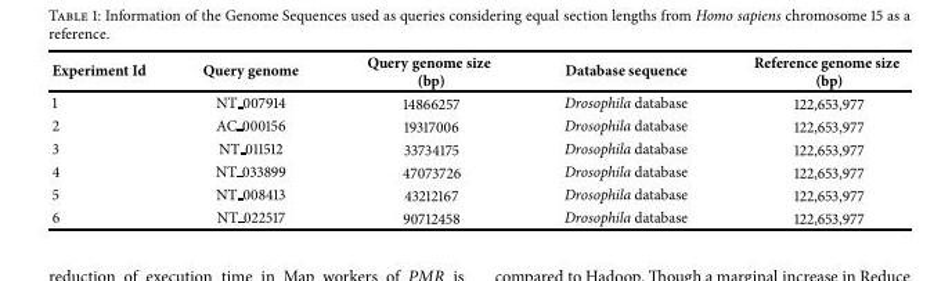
<table><thead><tr><td>Experiment Id</td><td>Query genome</td><td>Query genome size (bp)</td><td>Database sequence</td><td>Reference genome size (bp)</td></tr></thead><tbody><tr><td>1</td><td>NT 007914</td><td>14866257</td><td>Drosophila database</td><td>122,653,977</td></tr><tr><td>2</td><td>AC 000156</td><td>19317006</td><td>Drosophila database</td><td>122,653,977</td></tr><tr><td>3</td><td>NT 011512</td><td>33734175</td><td>Drosophila database</td><td>122,653,977</td></tr><tr><td>4</td><td>NT 033899</td><td>47073726</td><td>Drosophila database</td><td>122,653,977</td></tr><tr><td>5</td><td>NT 008413</td><td>43212167</td><td>Drosophila database</td><td>122,653,977</td></tr><tr><td>6</td><td>NT 022517</td><td>90712458</td><td>Drosophila database</td><td>122,653,977</td></tr></tbody></table>